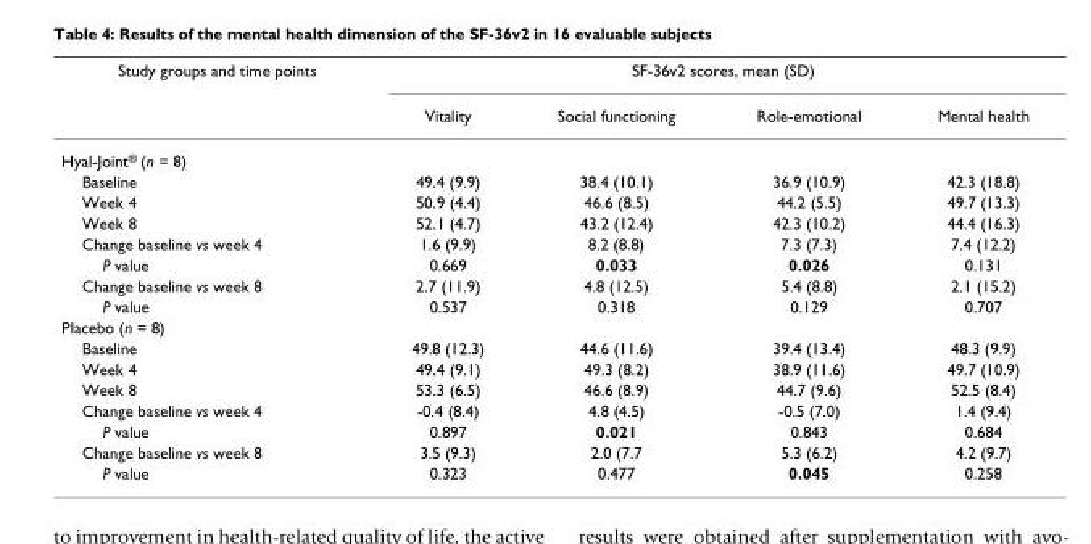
<table><thead><tr><td rowspan="2">Study groups and time points</td><td colspan="4">SF-36v2 scores, mean (SD)</td></tr><tr><td>Vitality</td><td>Social functioning</td><td>Role-emotional</td><td>Mental health</td></tr></thead><tbody><tr><td colspan="5">Hyal-Joint<sup>®</sup> (n = 8)</td></tr><tr><td>Baseline</td><td>49.4 (9.9)</td><td>38.4 (10.1)</td><td>36.9 (10.9)</td><td>42.3 (18.8)</td></tr><tr><td>Week 4</td><td>50.9 (4.4)</td><td>46.6 (8.5)</td><td>44.2 (5.5)</td><td>49.7 (13.3)</td></tr><tr><td>Week 8</td><td>52.1 (4.7)</td><td>43.2 (12.4)</td><td>42.3 (10.2)</td><td>44.4 (16.3)</td></tr><tr><td>Change baseline vs week 4</td><td>1.6 (9.9)</td><td>8.2 (8.8)</td><td>7.3 (7.3)</td><td>7.4 (12.2)</td></tr><tr><td>P value</td><td>0.669</td><td>0.033</td><td>0.026</td><td>0.131</td></tr><tr><td>Change baseline vs week 8</td><td>2.7 (11.9)</td><td>4.8 (12.5)</td><td>5.4 (8.8)</td><td>2.1 (15.2)</td></tr><tr><td>P value</td><td>0.537</td><td>0.318</td><td>0.129</td><td>0.707</td></tr><tr><td colspan="5">Placebo (n = 8)</td></tr><tr><td>Baseline</td><td>49.8 (12.3)</td><td>44.6 (11.6)</td><td>39.4 (13.4)</td><td>48.3 (9.9)</td></tr><tr><td>Week 4</td><td>49.4 (9.1)</td><td>49.3 (8.2)</td><td>38.9 (11.6)</td><td>49.7 (10.9)</td></tr><tr><td>Week 8</td><td>53.3 (6.5)</td><td>46.6 (8.9)</td><td>44.7 (9.6)</td><td>52.5 (8.4)</td></tr><tr><td>Change baseline vs week 4</td><td>-0.4 (8.4)</td><td>4.8 (4.5)</td><td>-0.5 (7.0)</td><td>1.4 (9.4)</td></tr><tr><td>P value</td><td>0.897</td><td>0.021</td><td>0.843</td><td>0.684</td></tr><tr><td>Change baseline vs week 8</td><td>3.5 (9.3)</td><td>2.0 (7.7</td><td>5.3 (6.2)</td><td>4.2 (9.7)</td></tr><tr><td>P value</td><td>0.323</td><td>0.477</td><td>0.045</td><td>0.258</td></tr></tbody></table>